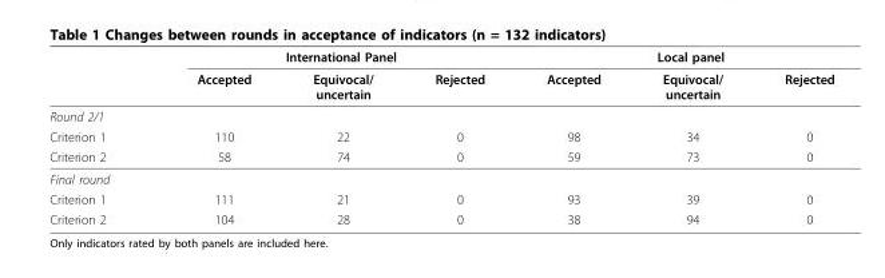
<table><thead><tr><td rowspan="2"></td><td colspan="3">International Panel</td><td colspan="3">Local panel</td></tr><tr><td>Accepted</td><td>Equivocal/ uncertain</td><td>Rejected</td><td>Accepted</td><td>Equivocal/ uncertain</td><td>Rejected</td></tr></thead><tbody><tr><td colspan="7">Round 2/1</td></tr><tr><td>Criterion 1</td><td>110</td><td>22</td><td>0</td><td>98</td><td>34</td><td>0</td></tr><tr><td>Criterion 2</td><td>58</td><td>74</td><td>0</td><td>59</td><td>73</td><td>0</td></tr><tr><td colspan="7">Final round</td></tr><tr><td>Criterion 1</td><td>111</td><td>21</td><td>0</td><td>93</td><td>39</td><td>0</td></tr><tr><td>Criterion 2</td><td>104</td><td>28</td><td>0</td><td>38</td><td>94</td><td>0</td></tr></tbody></table>